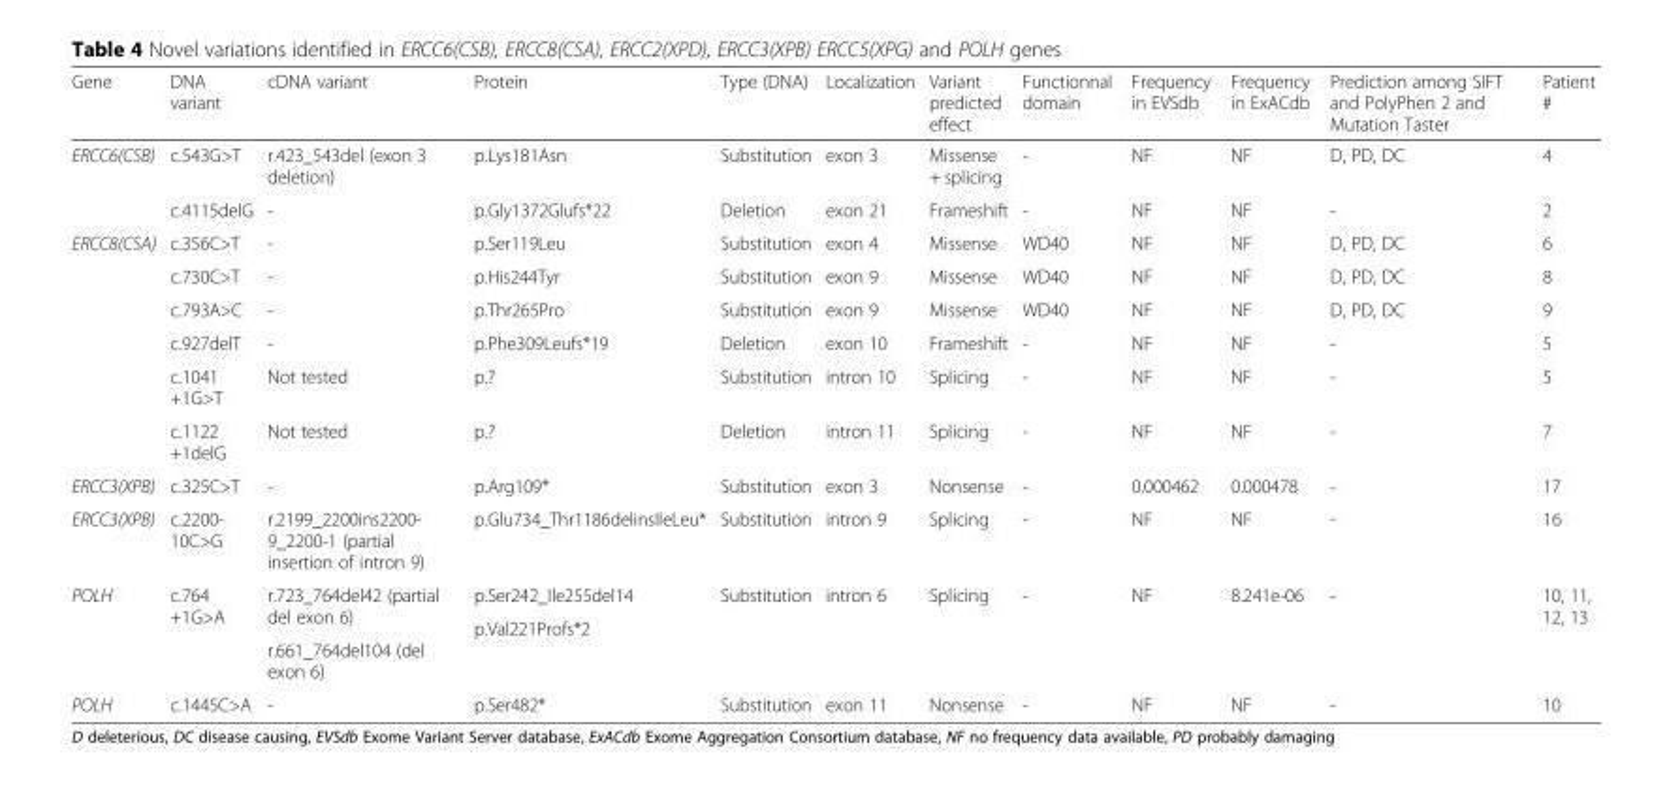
<table><thead><tr><td>Gene</td><td>DNA variant</td><td>cDNA variant</td><td>Protein</td><td>Type (DNA)</td><td>Localization</td><td>Variant predicted effect</td><td>Functionnal domain</td><td>Frequency in EVSdb</td><td>Frequency in ExACdb</td><td>Prediction among SIFT and PolyPhen 2 and Mutation Taster</td><td>Patient #</td></tr></thead><tbody><tr><td rowspan="2">ERCC6(CSB)</td><td>c.543G&gt;T</td><td>r.423_543del (exon 3 deletion)</td><td>p.Lys181Asn</td><td>Substitution</td><td>exon 3</td><td>Missense + splicing</td><td>-</td><td>NF</td><td>NF</td><td>D, PD, DC</td><td>4</td></tr><tr><td>c.4115delG</td><td>-</td><td>p.Gly1372Glufs*22</td><td>Deletion</td><td>exon 21</td><td>Frameshift</td><td>-</td><td>NF</td><td>NF</td><td>-</td><td>2</td></tr><tr><td rowspan="6">ERCC8(CSA)</td><td>c.356C&gt;T</td><td>-</td><td>p.Ser119Leu</td><td>Substitution</td><td>exon 4</td><td>Missense</td><td>WD40</td><td>NF</td><td>NF</td><td>D, PD, DC</td><td>6</td></tr><tr><td>c.730C&gt;T</td><td>-</td><td>p.His244Tyr</td><td>Substitution</td><td>exon 9</td><td>Missense</td><td>WD40</td><td>NF</td><td>NF</td><td>D, PD, DC</td><td>8</td></tr><tr><td>c.793A&gt;C</td><td>-</td><td>p.Thr265Pro</td><td>Substitution</td><td>exon 9</td><td>Missense</td><td>WD40</td><td>NF</td><td>NF</td><td>D, PD, DC</td><td>9</td></tr><tr><td>c.927delT</td><td>-</td><td>p.Phe309Leufs*19</td><td>Deletion</td><td>exon 10</td><td>Frameshift</td><td>-</td><td>NF</td><td>NF</td><td>-</td><td>5</td></tr><tr><td>c.1041 +1G&gt;T</td><td>Not tested</td><td>p.?</td><td>Substitution</td><td>intron 10</td><td>Splicing</td><td>-</td><td>NF</td><td>NF</td><td>-</td><td>5</td></tr><tr><td>c.1122 +1delG</td><td>Not tested</td><td>p.?</td><td>Deletion</td><td>intron 11</td><td>Splicing</td><td>-</td><td>NF</td><td>NF</td><td>-</td><td>7</td></tr><tr><td>ERCC3(XPB)</td><td>c.325C&gt;T</td><td>-</td><td>p.Arg109*</td><td>Substitution</td><td>exon 3</td><td>Nonsense</td><td>-</td><td>0.000462</td><td>0.000478</td><td>-</td><td>17</td></tr><tr><td>ERCC3(XPB)</td><td>c.2200- 10C&gt;G</td><td>r.2199_2200ins2200- 9_2200-1 (partial insertion of intron 9)</td><td>p.Glu734_Thr1186delinsIleLeu*</td><td>Substitution</td><td>intron 9</td><td>Splicing</td><td>-</td><td>NF</td><td>NF</td><td>-</td><td>16</td></tr><tr><td rowspan="3">POLH</td><td rowspan="3">c.764 +1G&gt;A</td><td rowspan="2">r.723_764del42 (partial del exon 6)</td><td>p.Ser242_Ile255del14</td><td rowspan="3">Substitution</td><td rowspan="3">intron 6</td><td rowspan="3">Splicing</td><td rowspan="3">-</td><td rowspan="3">NF</td><td rowspan="3">8.241e-06</td><td rowspan="3">-</td><td rowspan="3">10, 11, 12, 13</td></tr><tr><td rowspan="2">p.Val221Profs*2</td></tr><tr><td>r.661_764del104 (del exon 6)</td></tr><tr><td>POLH</td><td>c.1445C&gt;A</td><td>-</td><td>p.Ser482*</td><td>Substitution</td><td>exon 11</td><td>Nonsense</td><td>-</td><td>NF</td><td>NF</td><td>-</td><td>10</td></tr></tbody></table>